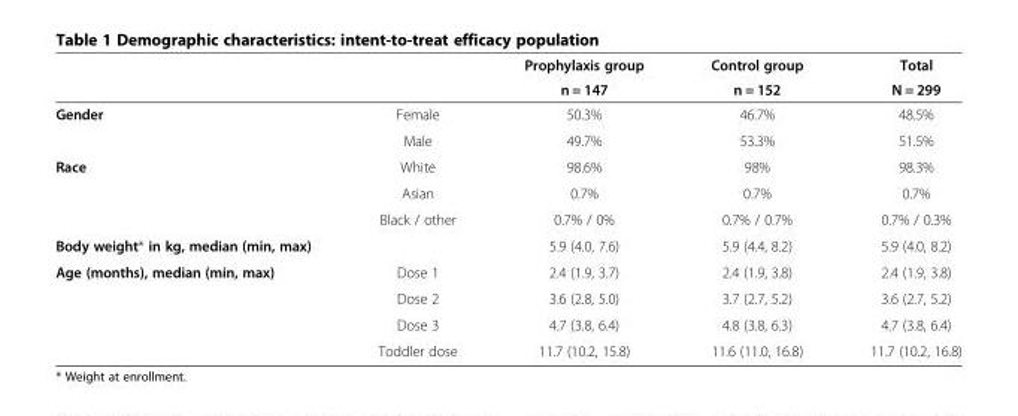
<table><thead><tr><td rowspan="2"></td><td rowspan="2"></td><td rowspan="2">Prophylaxis group n = 147</td><td rowspan="2">Control group n = 152</td><td rowspan="2">Total N = 299</td></tr><tr></tr></thead><tbody><tr><td rowspan="2">Gender</td><td>Female</td><td>50.3%</td><td>46.7%</td><td>48.5%</td></tr><tr><td>Male</td><td>49.7%</td><td>53.3%</td><td>51.5%</td></tr><tr><td rowspan="3">Race</td><td>White</td><td>98.6%</td><td>98%</td><td>98.3%</td></tr><tr><td>Asian</td><td>0.7%</td><td>0.7%</td><td>0.7%</td></tr><tr><td>Black / other</td><td>0.7% / 0%</td><td>0.7% / 0.7%</td><td>0.7% / 0.3%</td></tr><tr><td>Body weight* in kg, median (min, max)</td><td></td><td>5.9 (4.0, 7.6)</td><td>5.9 (4.4, 8.2)</td><td>5.9 (4.0, 8.2)</td></tr><tr><td rowspan="4">Age (months), median (min, max)</td><td>Dose 1</td><td>2.4 (1.9, 3.7)</td><td>2.4 (1.9, 3.8)</td><td>2.4 (1.9, 3.8)</td></tr><tr><td>Dose 2</td><td>3.6 (2.8, 5.0)</td><td>3.7 (2.7, 5.2)</td><td>3.6 (2.7, 5.2)</td></tr><tr><td>Dose 3</td><td>4.7 (3.8, 6.4)</td><td>4.8 (3.8, 6.3)</td><td>4.7 (3.8, 6.4)</td></tr><tr><td>Toddler dose</td><td>11.7 (10.2, 15.8)</td><td>11.6 (11.0, 16.8)</td><td>11.7 (10.2, 16.8)</td></tr></tbody></table>